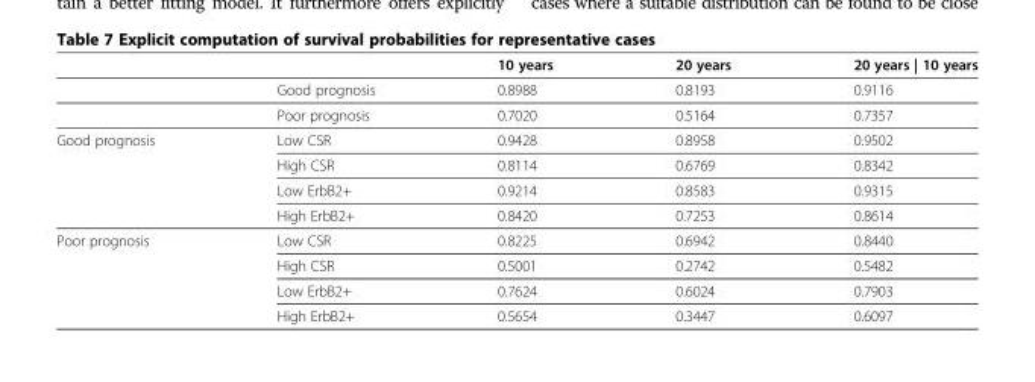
<table><thead><tr><td></td><td></td><td>10 years</td><td>20 years</td><td>20 years | 10 years</td></tr></thead><tbody><tr><td></td><td>Good prognosis</td><td>0.8988</td><td>0.8193</td><td>0.9116</td></tr><tr><td></td><td>Poor prognosis</td><td>0.7020</td><td>0.5164</td><td>0.7357</td></tr><tr><td rowspan="4">Good prognosis</td><td>Low CSR</td><td>0.9428</td><td>0.8958</td><td>0.9502</td></tr><tr><td>High CSR</td><td>0.8114</td><td>0.6769</td><td>0.8342</td></tr><tr><td>Low ErbB2+</td><td>0.9214</td><td>0.8583</td><td>0.9315</td></tr><tr><td>High ErbB2+</td><td>0.8420</td><td>0.7253</td><td>0.8614</td></tr><tr><td rowspan="4">Poor prognosis</td><td>Low CSR</td><td>0.8225</td><td>0.6942</td><td>0.8440</td></tr><tr><td>High CSR</td><td>0.5001</td><td>0.2742</td><td>0.5482</td></tr><tr><td>Low ErbB2+</td><td>0.7624</td><td>0.6024</td><td>0.7903</td></tr><tr><td>High ErbB2+</td><td>0.5654</td><td>0.3447</td><td>0.6097</td></tr></tbody></table>